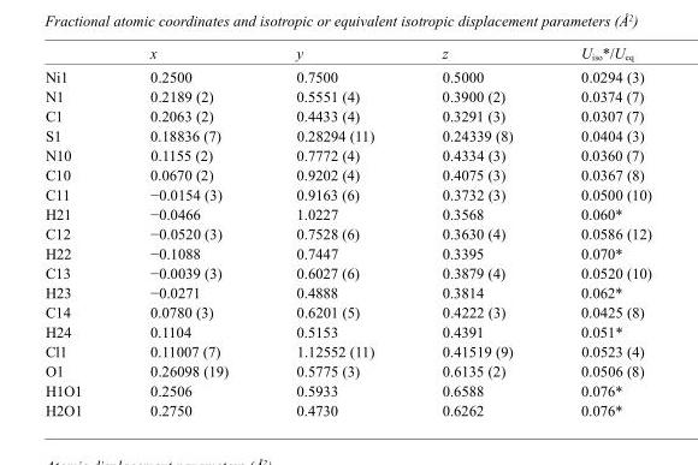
<table><thead><tr><td></td><td>x</td><td>y</td><td>z</td><td>U<sub>iso</sub>*/U<sub>eq</sub></td></tr></thead><tbody><tr><td>Ni1</td><td>0.2500</td><td>0.7500</td><td>0.5000</td><td>0.0294 (3)</td></tr><tr><td>N1</td><td>0.2189 (2)</td><td>0.5551 (4)</td><td>0.3900 (2)</td><td>0.0374 (7)</td></tr><tr><td>C1</td><td>0.2063 (2)</td><td>0.4433 (4)</td><td>0.3291 (3)</td><td>0.0307 (7)</td></tr><tr><td>S1</td><td>0.18836 (7)</td><td>0.28294 (11)</td><td>0.24339 (8)</td><td>0.0404 (3)</td></tr><tr><td>N10</td><td>0.1155 (2)</td><td>0.7772 (4)</td><td>0.4334 (3)</td><td>0.0360 (7)</td></tr><tr><td>C10</td><td>0.0670 (2)</td><td>0.9202 (4)</td><td>0.4075 (3)</td><td>0.0367 (8)</td></tr><tr><td>C11</td><td>−0.0154 (3)</td><td>0.9163 (6)</td><td>0.3732 (3)</td><td>0.0500 (10)</td></tr><tr><td>H21</td><td>−0.0466</td><td>1.0227</td><td>0.3568</td><td>0.060*</td></tr><tr><td>C12</td><td>−0.0520 (3)</td><td>0.7528 (6)</td><td>0.3630 (4)</td><td>0.0586 (12)</td></tr><tr><td>H22</td><td>−0.1088</td><td>0.7447</td><td>0.3395</td><td>0.070*</td></tr><tr><td>C13</td><td>−0.0039 (3)</td><td>0.6027 (6)</td><td>0.3879 (4)</td><td>0.0520 (10)</td></tr><tr><td>H23</td><td>−0.0271</td><td>0.4888</td><td>0.3814</td><td>0.062*</td></tr><tr><td>C14</td><td>0.0780 (3)</td><td>0.6201 (5)</td><td>0.4222 (3)</td><td>0.0425 (8)</td></tr><tr><td>H24</td><td>0.1104</td><td>0.5153</td><td>0.4391</td><td>0.051*</td></tr><tr><td>Cl1</td><td>0.11007 (7)</td><td>1.12552 (11)</td><td>0.41519 (9)</td><td>0.0523 (4)</td></tr><tr><td>O1</td><td>0.26098 (19)</td><td>0.5775 (3)</td><td>0.6135 (2)</td><td>0.0506 (8)</td></tr><tr><td>H1O1</td><td>0.2506</td><td>0.5933</td><td>0.6588</td><td>0.076*</td></tr><tr><td>H2O1</td><td>0.2750</td><td>0.4730</td><td>0.6262</td><td>0.076*</td></tr></tbody></table>